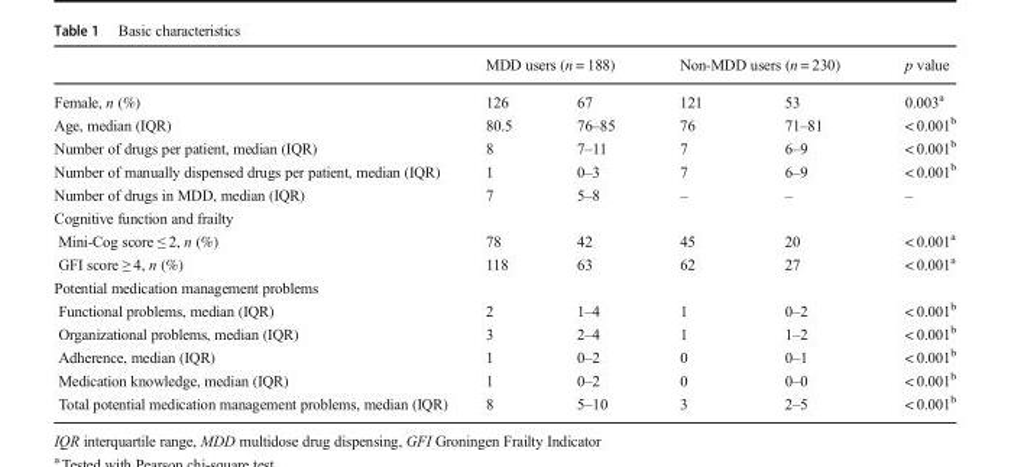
<table><thead><tr><td rowspan="2">Female, n (%)</td><td colspan="2">MDD users (n = 188)</td><td colspan="2">Non-MDD users (n = 230)</td><td rowspan="2">p value 0.003<sup>a</sup></td></tr><tr><td>126</td><td>67</td><td>121</td><td>53</td></tr></thead><tbody><tr><td>Age, median (IQR)</td><td>80.5</td><td>76–85</td><td>76</td><td>71–81</td><td>&lt; 0.001<sup>b</sup></td></tr><tr><td>Number of drugs per patient, median (IQR)</td><td>8</td><td>7–11</td><td>7</td><td>6–9</td><td>&lt; 0.001<sup>b</sup></td></tr><tr><td>Number of manually dispensed drugs per patient, median (IQR)</td><td>1</td><td>0–3</td><td>7</td><td>6–9</td><td>&lt; 0.001<sup>b</sup></td></tr><tr><td>Number of drugs in MDD, median (IQR)</td><td>7</td><td>5–8</td><td>–</td><td>–</td><td>–</td></tr><tr><td colspan="6">Cognitive function and frailty</td></tr><tr><td>Mini-Cog score ≤ 2, n (%)</td><td>78</td><td>42</td><td>45</td><td>20</td><td>&lt; 0.001<sup>a</sup></td></tr><tr><td>GFI score ≥ 4, n (%)</td><td>118</td><td>63</td><td>62</td><td>27</td><td>&lt; 0.001<sup>a</sup></td></tr><tr><td colspan="6">Potential medication management problems</td></tr><tr><td>Functional problems, median (IQR)</td><td>2</td><td>1–4</td><td>1</td><td>0–2</td><td>&lt; 0.001<sup>b</sup></td></tr><tr><td>Organizational problems, median (IQR)</td><td>3</td><td>2–4</td><td>1</td><td>1–2</td><td>&lt; 0.001<sup>b</sup></td></tr><tr><td>Adherence, median (IQR)</td><td>1</td><td>0–2</td><td>0</td><td>0–1</td><td>&lt; 0.001<sup>b</sup></td></tr><tr><td>Medication knowledge, median (IQR)</td><td>1</td><td>0–2</td><td>0</td><td>0–0</td><td>&lt; 0.001<sup>b</sup></td></tr><tr><td>Total potential medication management problems, median (IQR)</td><td>8</td><td>5–10</td><td>3</td><td>2–5</td><td>&lt; 0.001<sup>b</sup></td></tr></tbody></table>